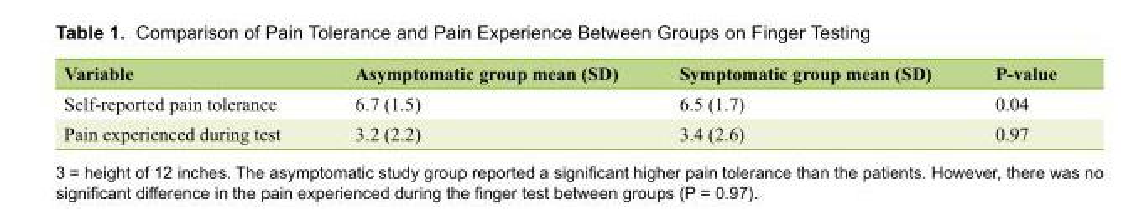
<table><thead><tr><td>Variable</td><td>Asymptomatic group mean (SD)</td><td>Symptomatic group mean (SD)</td><td>P-value</td></tr></thead><tbody><tr><td>Self-reported pain tolerance</td><td>6.7 (1.5)</td><td>6.5 (1.7)</td><td>0.04</td></tr><tr><td>Pain experienced during test</td><td>3.2 (2.2)</td><td>3.4 (2.6)</td><td>0.97</td></tr></tbody></table>